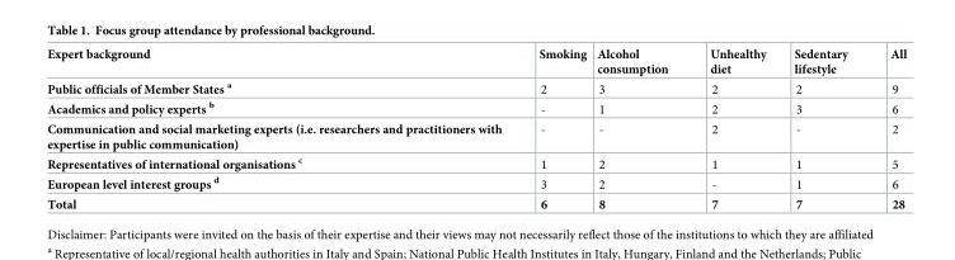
<table><thead><tr><td>Expert background</td><td>Smoking</td><td>Alcohol consumption</td><td>Unhealthy diet</td><td>Sedentary lifestyle</td><td>All</td></tr></thead><tbody><tr><td>Public officials of Member States <sup>a</sup></td><td>2</td><td>3</td><td>2</td><td>2</td><td>9</td></tr><tr><td>Academics and policy experts <sup>b</sup></td><td>-</td><td>1</td><td>2</td><td>3</td><td>6</td></tr><tr><td>Communication and social marketing experts (i.e. researchers and practitioners with expertise in public communication)</td><td>-</td><td>-</td><td>2</td><td>-</td><td>2</td></tr><tr><td>Representatives of international organisations <sup>c</sup></td><td>1</td><td>2</td><td>1</td><td>1</td><td>5</td></tr><tr><td>European level interest groups <sup>d</sup></td><td>3</td><td>2</td><td>-</td><td>1</td><td>6</td></tr><tr><td>Total</td><td>6</td><td>8</td><td>7</td><td>7</td><td>28</td></tr></tbody></table>